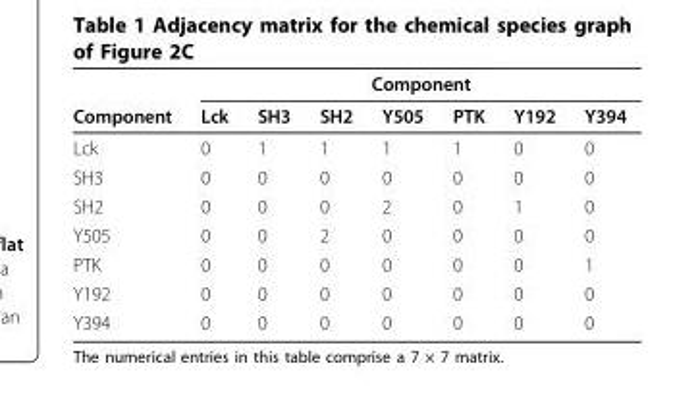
<table><thead><tr><td rowspan="2">Component</td><td colspan="7">Component</td></tr><tr><td>Lck</td><td>SH3</td><td>SH2</td><td>Y505</td><td>PTK</td><td>Y192</td><td>Y394</td></tr></thead><tbody><tr><td>Lck</td><td>0</td><td>1</td><td>1</td><td>1</td><td>1</td><td>0</td><td>0</td></tr><tr><td>SH3</td><td>0</td><td>0</td><td>0</td><td>0</td><td>0</td><td>0</td><td>0</td></tr><tr><td>SH2</td><td>0</td><td>0</td><td>0</td><td>2</td><td>0</td><td>1</td><td>0</td></tr><tr><td>Y505</td><td>0</td><td>0</td><td>2</td><td>0</td><td>0</td><td>0</td><td>0</td></tr><tr><td>PTK</td><td>0</td><td>0</td><td>0</td><td>0</td><td>0</td><td>0</td><td>1</td></tr><tr><td>Y192</td><td>0</td><td>0</td><td>0</td><td>0</td><td>0</td><td>0</td><td>0</td></tr><tr><td>Y394</td><td>0</td><td>0</td><td>0</td><td>0</td><td>0</td><td>0</td><td>0</td></tr></tbody></table>